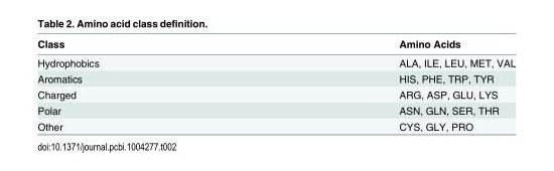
<table><thead><tr><td>Class</td><td>Amino Acids</td></tr></thead><tbody><tr><td>Hydrophobics</td><td>ALA, ILE, LEU, MET, VAL</td></tr><tr><td>Aromatics</td><td>HIS, PHE, TRP, TYR</td></tr><tr><td>Charged</td><td>ARG, ASP, GLU, LYS</td></tr><tr><td>Polar</td><td>ASN, GLN, SER, THR</td></tr><tr><td>Other</td><td>CYS, GLY, PRO</td></tr></tbody></table>